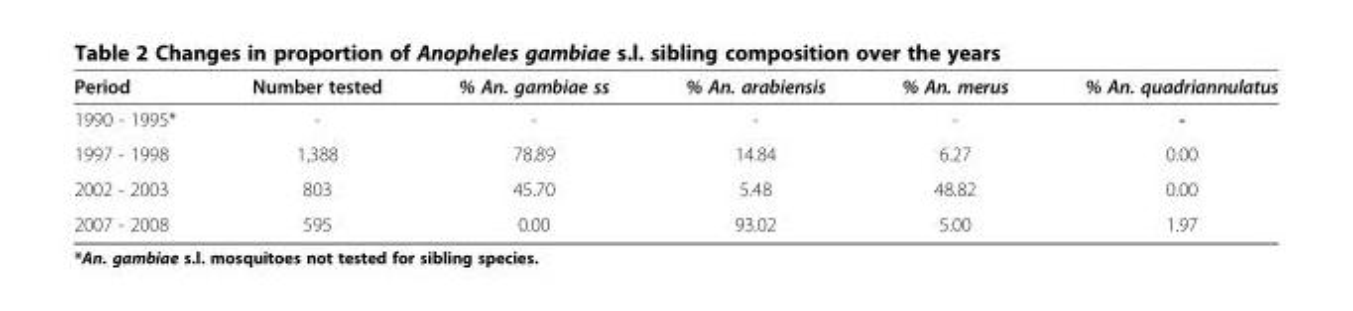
<table><thead><tr><td>Period</td><td>Number tested</td><td>% An. gambiae ss</td><td>% An. arabiensis</td><td>% An. merus</td><td>% An. quadriannulatus</td></tr></thead><tbody><tr><td>1990 - 1995*</td><td>-</td><td>-</td><td>-</td><td>-</td><td>-</td></tr><tr><td>1997 - 1998</td><td>1,388</td><td>78.89</td><td>14.84</td><td>6.27</td><td>0.00</td></tr><tr><td>2002 - 2003</td><td>803</td><td>45.70</td><td>5.48</td><td>48.82</td><td>0.00</td></tr><tr><td>2007 - 2008</td><td>595</td><td>0.00</td><td>93.02</td><td>5.00</td><td>1.97</td></tr></tbody></table>